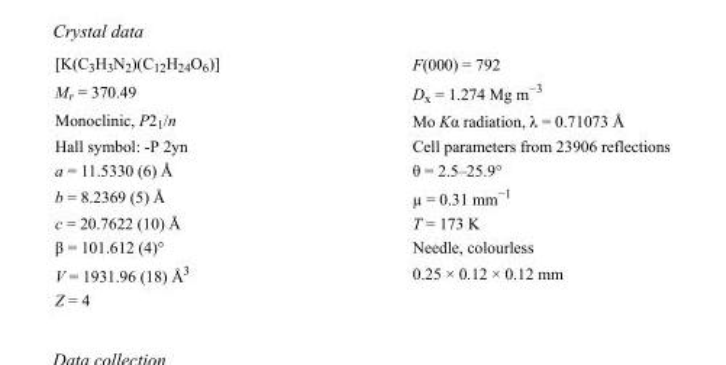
<table><tbody><tr><td>[K(C<sub>3</sub>H<sub>3</sub>N<sub>2</sub>)(C<sub>12</sub>H<sub>24</sub>O<sub>6</sub>)]</td><td>F(000) = 792</td></tr><tr><td>M<sub>r</sub> = 370.49</td><td>D<sub>x</sub> = 1.274 Mg m<sup>−3</sup></td></tr><tr><td>Monoclinic, P2<sub>1</sub>/n</td><td>Mo Kα radiation, λ = 0.71073 Å</td></tr><tr><td>Hall symbol: -P 2yn</td><td>Cell parameters from 23906 reflections</td></tr><tr><td>a = 11.5330 (6) Å</td><td>θ = 2.5–25.9°</td></tr><tr><td>b = 8.2369 (5) Å</td><td>µ = 0.31 mm<sup>−1</sup></td></tr><tr><td>c = 20.7622 (10) Å</td><td>T = 173 K</td></tr><tr><td>β = 101.612 (4)°</td><td>Needle, colourless</td></tr><tr><td>V = 1931.96 (18) Å<sup>3</sup></td><td>0.25 × 0.12 × 0.12 mm</td></tr><tr><td>Z = 4</td><td></td></tr></tbody></table>